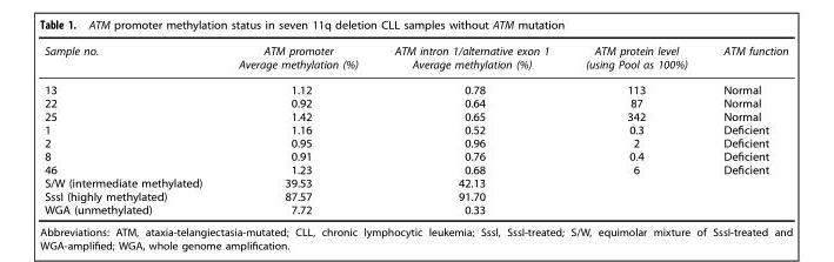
<table><thead><tr><td>Sample no.</td><td>ATM promoter Average methylation (%)</td><td>ATM intron 1/alternative exon 1 Average methylation (%)</td><td>ATM protein level (using Pool as 100%)</td><td>ATM function</td></tr></thead><tbody><tr><td>13</td><td>1.12</td><td>0.78</td><td>113</td><td>Normal</td></tr><tr><td>22</td><td>0.92</td><td>0.64</td><td>87</td><td>Normal</td></tr><tr><td>25</td><td>1.42</td><td>0.65</td><td>342</td><td>Normal</td></tr><tr><td>1</td><td>1.16</td><td>0.52</td><td>0.3</td><td>Deficient</td></tr><tr><td>2</td><td>0.95</td><td>0.96</td><td>2</td><td>Deficient</td></tr><tr><td>8</td><td>0.91</td><td>0.76</td><td>0.4</td><td>Deficient</td></tr><tr><td>46</td><td>1.23</td><td>0.68</td><td>6</td><td>Deficient</td></tr><tr><td>S/W (intermediate methylated)</td><td>39.53</td><td>42.13</td><td></td><td></td></tr><tr><td>SssI (highly methylated)</td><td>87.57</td><td>91.70</td><td></td><td></td></tr><tr><td>WGA (unmethylated)</td><td>7.72</td><td>0.33</td><td></td><td></td></tr></tbody></table>